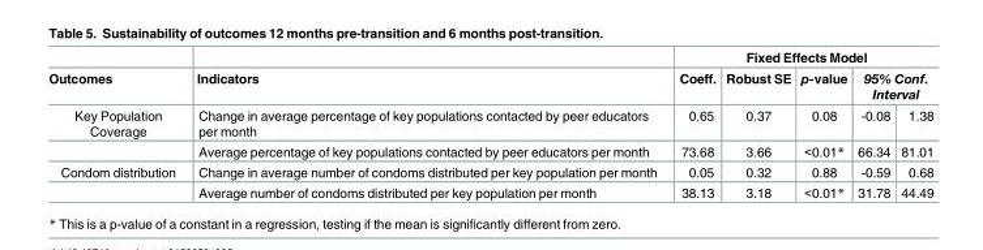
<table><thead><tr><td rowspan="3">Outcomes Key Population Coverage</td><td rowspan="3">Indicators Change in average percentage of key populations contacted by peer educators per month</td><td colspan="5">Fixed Effects Model</td></tr><tr><td rowspan="2">Coeff. 0.65</td><td rowspan="2">Robust SE 0.37</td><td rowspan="2">p-value 0.08</td><td colspan="2">95% Conf. Interval</td></tr><tr><td>-0.08</td><td>1.38</td></tr></thead><tbody><tr><td></td><td>Average percentage of key populations contacted by peer educators per month</td><td>73.68</td><td>3.66</td><td>&lt;0.01*</td><td>66.34</td><td>81.01</td></tr><tr><td rowspan="2">Condom distribution</td><td>Change in average number of condoms distributed per key population per month</td><td>0.05</td><td>0.32</td><td>0.88</td><td>-0.59</td><td>0.68</td></tr><tr><td>Average number of condoms distributed per key population per month</td><td>38.13</td><td>3.18</td><td>&lt;0.01*</td><td>31.78</td><td>44.49</td></tr></tbody></table>